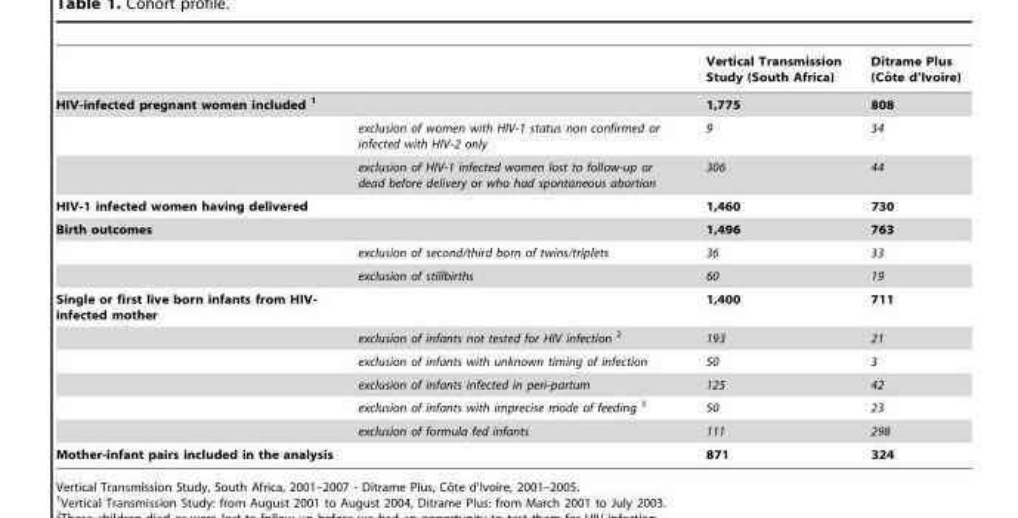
<table><thead><tr><td></td><td></td><td>Vertical Transmission Study (South Africa)</td><td>Ditrame Plus (Coˆ te d’Ivoire)</td></tr></thead><tbody><tr><td rowspan="3">HIV-infected pregnant women included 1</td><td></td><td>1,775</td><td>808</td></tr><tr><td>exclusion of women with HIV-1 status non confirmed or infected with HIV-2 only</td><td>9</td><td>34</td></tr><tr><td>exclusion of HIV-1 infected women lost to follow-up or dead before delivery or who had spontaneous abortion</td><td>306</td><td>44</td></tr><tr><td>HIV-1 infected women having delivered</td><td></td><td>1,460</td><td>730</td></tr><tr><td rowspan="3">Birth outcomes</td><td></td><td>1,496</td><td>763</td></tr><tr><td>exclusion of second/third born of twins/triplets</td><td>36</td><td>33</td></tr><tr><td>exclusion of stillbirths</td><td>60</td><td>19</td></tr><tr><td rowspan="6">Single or first live born infants from HIV- infected mother</td><td></td><td>1,400</td><td>711</td></tr><tr><td>exclusion of infants not tested for HIV infection 2</td><td>193</td><td>21</td></tr><tr><td>exclusion of infants with unknown timing of infection</td><td>50</td><td>3</td></tr><tr><td>exclusion of infants infected in peri-partum</td><td>125</td><td>42</td></tr><tr><td>exclusion of infants with imprecise mode of feeding 3</td><td>50</td><td>23</td></tr><tr><td>exclusion of formula fed infants</td><td>111</td><td>298</td></tr><tr><td>Mother-infant pairs included in the analysis</td><td></td><td>871</td><td>324</td></tr></tbody></table>